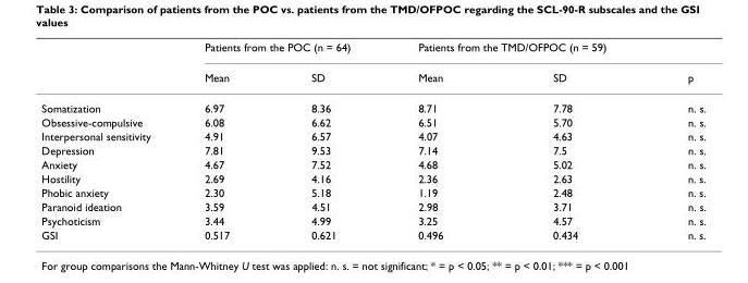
<table><thead><tr><td rowspan="2"></td><td colspan="2">Patients from the POC (n = 64)</td><td colspan="2">Patients from the TMD/OFPOC (n = 59)</td><td rowspan="2">p</td></tr><tr><td>Mean</td><td>SD</td><td>Mean</td><td>SD</td></tr></thead><tbody><tr><td>Somatization</td><td>6.97</td><td>8.36</td><td>8.71</td><td>7.78</td><td>n. s.</td></tr><tr><td>Obsessive-compulsive</td><td>6.08</td><td>6.62</td><td>6.51</td><td>5.70</td><td>n. s.</td></tr><tr><td>Interpersonal sensitivity</td><td>4.91</td><td>6.57</td><td>4.07</td><td>4.63</td><td>n. s.</td></tr><tr><td>Depression</td><td>7.81</td><td>9.53</td><td>7.14</td><td>7.5</td><td>n. s.</td></tr><tr><td>Anxiety</td><td>4.67</td><td>7.52</td><td>4.68</td><td>5.02</td><td>n. s.</td></tr><tr><td>Hostility</td><td>2.69</td><td>4.16</td><td>2.36</td><td>2.63</td><td>n. s.</td></tr><tr><td>Phobic anxiety</td><td>2.30</td><td>5.18</td><td>1.19</td><td>2.48</td><td>n. s.</td></tr><tr><td>Paranoid ideation</td><td>3.59</td><td>4.51</td><td>2.98</td><td>3.71</td><td>n. s.</td></tr><tr><td>Psychoticism</td><td>3.44</td><td>4.99</td><td>3.25</td><td>4.57</td><td>n. s.</td></tr><tr><td>GSI</td><td>0.517</td><td>0.621</td><td>0.496</td><td>0.434</td><td>n. s.</td></tr></tbody></table>